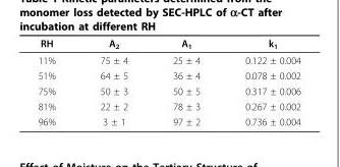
<table><thead><tr><td>RH</td><td>A<sub>2</sub></td><td>A<sub>1</sub></td><td>k<sub>1</sub></td></tr></thead><tbody><tr><td>11%</td><td>75 ± 4</td><td>25 ± 4</td><td>0.122 ± 0.004</td></tr><tr><td>51%</td><td>64 ± 5</td><td>36 ± 4</td><td>0.078 ± 0.002</td></tr><tr><td>75%</td><td>50 ± 3</td><td>50 ± 5</td><td>0.317 ± 0.006</td></tr><tr><td>81%</td><td>22 ± 2</td><td>78 ± 3</td><td>0.267 ± 0.002</td></tr><tr><td>96%</td><td>3 ± 1</td><td>97 ± 2</td><td>0.736 ± 0.004</td></tr></tbody></table>